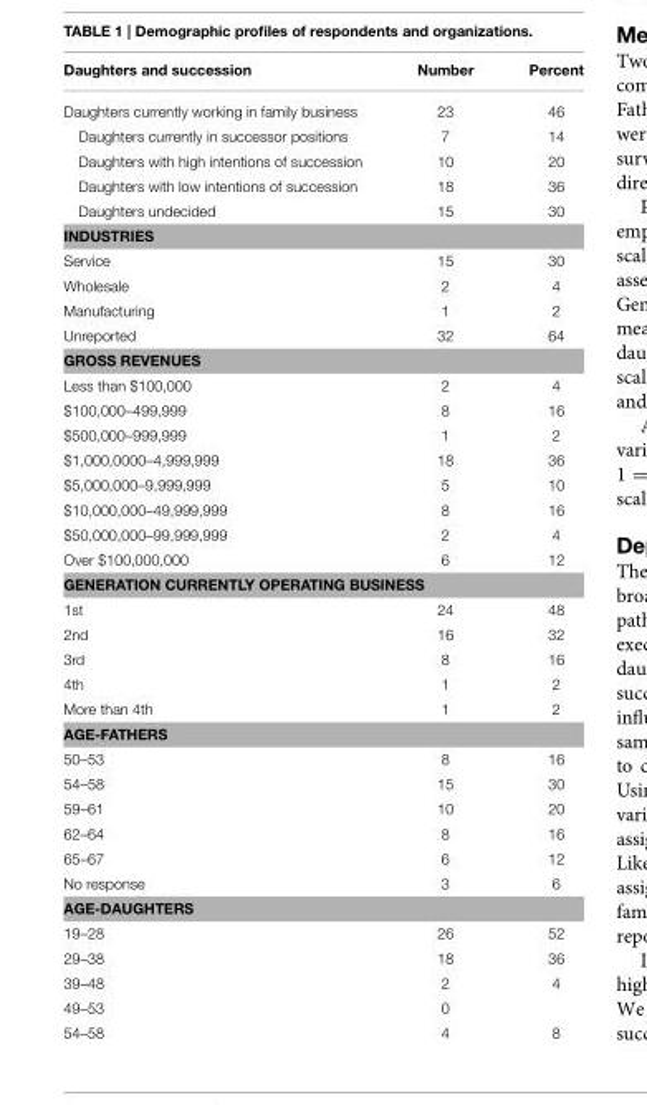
<table><thead><tr><td>Daughters and succession</td><td>Number</td><td>Percent</td></tr></thead><tbody><tr><td>Daughters currently working in family business</td><td>23</td><td>46</td></tr><tr><td>Daughters currently in successor positions</td><td>7</td><td>14</td></tr><tr><td>Daughters with high intentions of succession</td><td>10</td><td>20</td></tr><tr><td>Daughters with low intentions of succession</td><td>18</td><td>36</td></tr><tr><td>Daughters undecided</td><td>15</td><td>30</td></tr><tr><td colspan="3">INDUSTRIES</td></tr><tr><td>Service</td><td>15</td><td>30</td></tr><tr><td>Wholesale</td><td>2</td><td>4</td></tr><tr><td>Manufacturing</td><td>1</td><td>2</td></tr><tr><td>Unreported</td><td>32</td><td>64</td></tr><tr><td colspan="3">GROSS REVENUES</td></tr><tr><td>Less than $100,000</td><td>2</td><td>4</td></tr><tr><td>$100,000–499,999</td><td>8</td><td>16</td></tr><tr><td>$500,000–999,999</td><td>1</td><td>2</td></tr><tr><td>$1,000,0000–4,999,999</td><td>18</td><td>36</td></tr><tr><td>$5,000,000–9,999,999</td><td>5</td><td>10</td></tr><tr><td>$10,000,000–49,999,999</td><td>8</td><td>16</td></tr><tr><td>$50,000,000–99,999,999</td><td>2</td><td>4</td></tr><tr><td>Over $100,000,000</td><td>6</td><td>12</td></tr><tr><td colspan="3">GENERATION CURRENTLY OPERATING BUSINESS</td></tr><tr><td>1st</td><td>24</td><td>48</td></tr><tr><td>2nd</td><td>16</td><td>32</td></tr><tr><td>3rd</td><td>8</td><td>16</td></tr><tr><td>4th</td><td>1</td><td>2</td></tr><tr><td>More than 4th</td><td>1</td><td>2</td></tr><tr><td colspan="3">AGE-FATHERS</td></tr><tr><td>50–53</td><td>8</td><td>16</td></tr><tr><td>54–58</td><td>15</td><td>30</td></tr><tr><td>59–61</td><td>10</td><td>20</td></tr><tr><td>62–64</td><td>8</td><td>16</td></tr><tr><td>65–67</td><td>6</td><td>12</td></tr><tr><td>No response</td><td>3</td><td>6</td></tr><tr><td colspan="3">AGE-DAUGHTERS</td></tr><tr><td>19–28</td><td>26</td><td>52</td></tr><tr><td>29–38</td><td>18</td><td>36</td></tr><tr><td>39–48</td><td>2</td><td>4</td></tr><tr><td>49–53</td><td>0</td><td></td></tr><tr><td>54–58</td><td>4</td><td>8</td></tr></tbody></table>